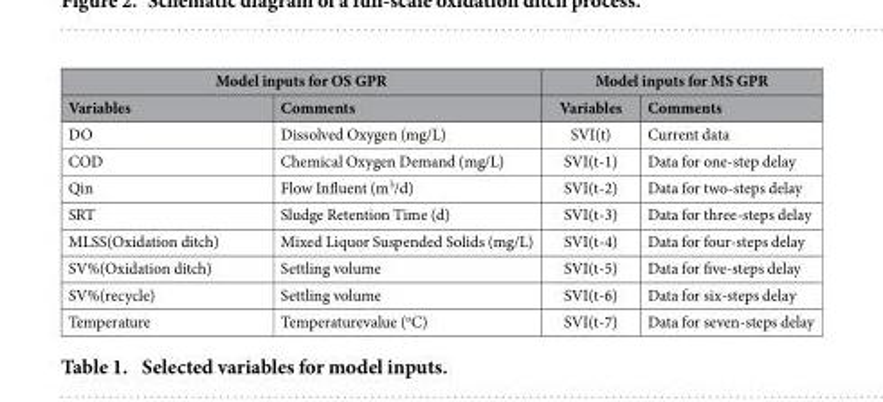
<table><thead><tr><td colspan="2">Model inputs for OS GPR</td><td colspan="2">Model inputs for MS GPR</td></tr><tr><td>Variables</td><td>Comments</td><td>Variables</td><td>Comments</td></tr></thead><tbody><tr><td>DO</td><td>Dissolved Oxygen (mg/L)</td><td>SVI(t)</td><td>Current data</td></tr><tr><td>COD</td><td>Chemical Oxygen Demand (mg/L)</td><td>SVI(t-1)</td><td>Data for one-step delay</td></tr><tr><td>Qin</td><td>Flow Influent (m<sup>3</sup>/d)</td><td>SVI(t-2)</td><td>Data for two-steps delay</td></tr><tr><td>SRT</td><td>Sludge Retention Time (d)</td><td>SVI(t-3)</td><td>Data for three-steps delay</td></tr><tr><td>MLSS(Oxidation ditch)</td><td>Mixed Liquor Suspended Solids (mg/L)</td><td>SVI(t-4)</td><td>Data for four-steps delay</td></tr><tr><td>SV%(Oxidation ditch)</td><td>Settling volume</td><td>SVI(t-5)</td><td>Data for five-steps delay</td></tr><tr><td>SV%(recycle)</td><td>Settling volume</td><td>SVI(t-6)</td><td>Data for six-steps delay</td></tr><tr><td>Temperature</td><td>Temperaturevalue (<sup>o</sup>C)</td><td>SVI(t-7)</td><td>Data for seven-steps delay</td></tr></tbody></table>